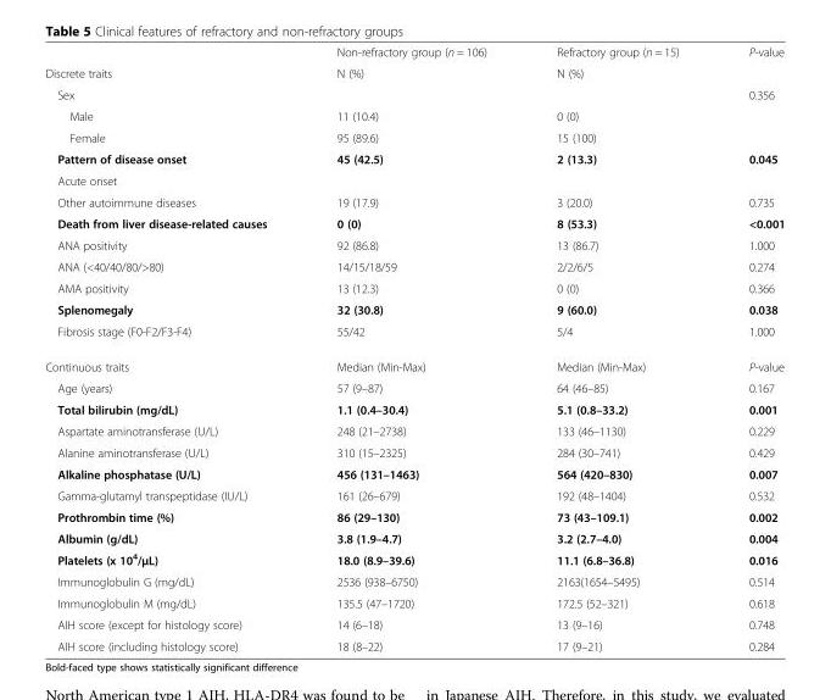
<table><thead><tr><td></td><td>Non-refractory group (n = 106)</td><td>Refractory group (n = 15)</td><td>P-value</td></tr></thead><tbody><tr><td>Discrete traits</td><td>N (%)</td><td>N (%)</td><td></td></tr><tr><td>Sex</td><td></td><td></td><td>0.356</td></tr><tr><td>Male</td><td>11 (10.4)</td><td>0 (0)</td><td></td></tr><tr><td>Female</td><td>95 (89.6)</td><td>15 (100)</td><td></td></tr><tr><td>Pattern of disease onset</td><td rowspan="2">45 (42.5)</td><td rowspan="2">2 (13.3)</td><td rowspan="2">0.045</td></tr><tr><td>Acute onset</td></tr><tr><td>Other autoimmune diseases</td><td>19 (17.9)</td><td>3 (20.0)</td><td>0.735</td></tr><tr><td>Death from liver disease-related causes</td><td>0 (0)</td><td>8 (53.3)</td><td>&lt;0.001</td></tr><tr><td>ANA positivity</td><td>92 (86.8)</td><td>13 (86.7)</td><td>1.000</td></tr><tr><td>ANA (&lt;40/40/80/&gt;80)</td><td>14/15/18/59</td><td>2/2/6/5</td><td>0.274</td></tr><tr><td>AMA positivity</td><td>13 (12.3)</td><td>0 (0)</td><td>0.366</td></tr><tr><td>Splenomegaly</td><td>32 (30.8)</td><td>9 (60.0)</td><td>0.038</td></tr><tr><td>Fibrosis stage (F0-F2/F3-F4)</td><td>55/42</td><td>5/4</td><td>1.000</td></tr><tr><td>Continuous traits</td><td>Median (Min-Max)</td><td>Median (Min-Max)</td><td>P-value</td></tr><tr><td>Age (years)</td><td>57 (9–87)</td><td>64 (46–85)</td><td>0.167</td></tr><tr><td>Total bilirubin (mg/dL)</td><td>1.1 (0.4–30.4)</td><td>5.1 (0.8–33.2)</td><td>0.001</td></tr><tr><td>Aspartate aminotransferase (U/L)</td><td>248 (21–2738)</td><td>133 (46–1130)</td><td>0.229</td></tr><tr><td>Alanine aminotransferase (U/L)</td><td>310 (15–2325)</td><td>284 (30–741)</td><td>0.429</td></tr><tr><td>Alkaline phosphatase (U/L)</td><td>456 (131–1463)</td><td>564 (420–830)</td><td>0.007</td></tr><tr><td>Gamma-glutamyl transpeptidase (IU/L)</td><td>161 (26–679)</td><td>192 (48–1404)</td><td>0.532</td></tr><tr><td>Prothrombin time (%)</td><td>86 (29–130)</td><td>73 (43–109.1)</td><td>0.002</td></tr><tr><td>Albumin (g/dL)</td><td>3.8 (1.9–4.7)</td><td>3.2 (2.7–4.0)</td><td>0.004</td></tr><tr><td>Platelets (x 10<sup>4</sup>/μL)</td><td>18.0 (8.9–39.6)</td><td>11.1 (6.8–36.8)</td><td>0.016</td></tr><tr><td>Immunoglobulin G (mg/dL)</td><td>2536 (938–6750)</td><td>2163(1654–5495)</td><td>0.514</td></tr><tr><td>Immunoglobulin M (mg/dL)</td><td>135.5 (47–1720)</td><td>172.5 (52–321)</td><td>0.618</td></tr><tr><td>AIH score (except for histology score)</td><td>14 (6–18)</td><td>13 (9–16)</td><td>0.748</td></tr><tr><td>AIH score (including histology score)</td><td>18 (8–22)</td><td>17 (9–21)</td><td>0.284</td></tr></tbody></table>